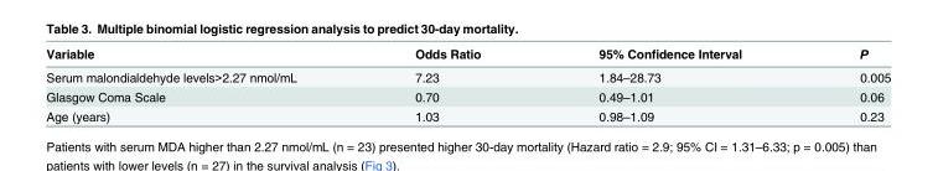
<table><thead><tr><td>Variable</td><td>Odds Ratio</td><td>95% Confidence Interval</td><td>P</td></tr></thead><tbody><tr><td>Serum malondialdehyde levels&gt;2.27 nmol/mL</td><td>7.23</td><td>1.84–28.73</td><td>0.005</td></tr><tr><td>Glasgow Coma Scale</td><td>0.70</td><td>0.49–1.01</td><td>0.06</td></tr><tr><td>Age (years)</td><td>1.03</td><td>0.98–1.09</td><td>0.23</td></tr></tbody></table>